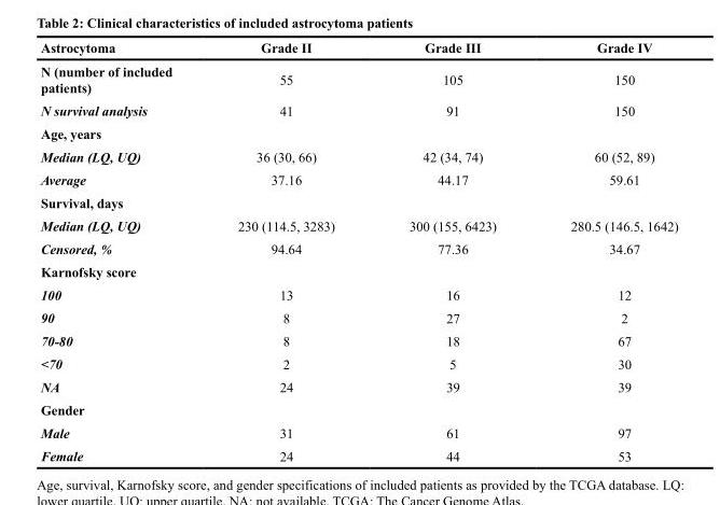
<table><thead><tr><td>Astrocytoma</td><td>Grade II</td><td>Grade III</td><td>Grade IV</td></tr></thead><tbody><tr><td>N (number of included patients)</td><td>55</td><td>105</td><td>150</td></tr><tr><td>N survival analysis</td><td>41</td><td>91</td><td>150</td></tr><tr><td colspan="4">Age, years</td></tr><tr><td>Median (LQ, UQ)</td><td>36 (30, 66)</td><td>42 (34, 74)</td><td>60 (52, 89)</td></tr><tr><td>Average</td><td>37.16</td><td>44.17</td><td>59.61</td></tr><tr><td colspan="4">Survival, days</td></tr><tr><td>Median (LQ, UQ)</td><td>230 (114.5, 3283)</td><td>300 (155, 6423)</td><td>280.5 (146.5, 1642)</td></tr><tr><td>Censored, %</td><td>94.64</td><td>77.36</td><td>34.67</td></tr><tr><td colspan="4">Karnofsky score</td></tr><tr><td>100</td><td>13</td><td>16</td><td>12</td></tr><tr><td>90</td><td>8</td><td>27</td><td>2</td></tr><tr><td>70-80</td><td>8</td><td>18</td><td>67</td></tr><tr><td>&lt;70</td><td>2</td><td>5</td><td>30</td></tr><tr><td>NA</td><td>24</td><td>39</td><td>39</td></tr><tr><td colspan="4">Gender</td></tr><tr><td>Male</td><td>31</td><td>61</td><td>97</td></tr><tr><td>Female</td><td>24</td><td>44</td><td>53</td></tr></tbody></table>